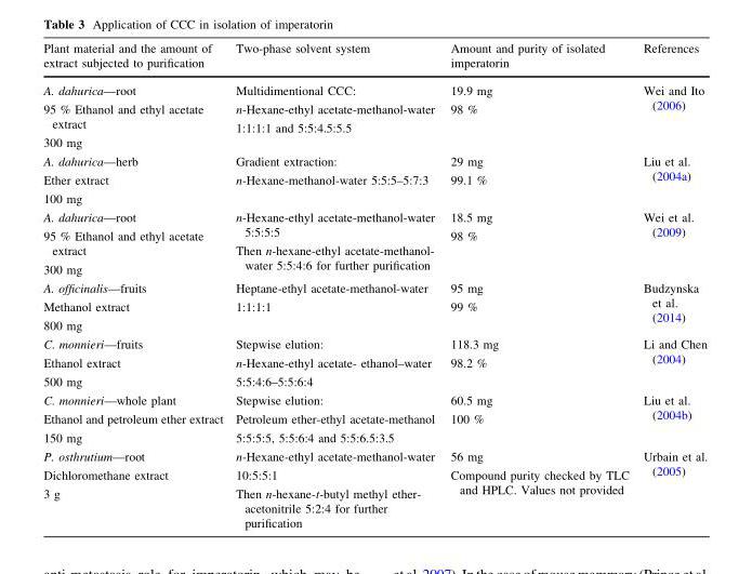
<table><thead><tr><td>Plant material and the amount of extract subjected to purification</td><td>Two-phase solvent system</td><td>Amount and purity of isolated imperatorin</td><td>References</td></tr></thead><tbody><tr><td>A. dahurica—root 95 % Ethanol and ethyl acetate extract 300 mg</td><td>Multidimentional CCC: n-Hexane-ethyl acetate-methanol-water 1:1:1:1 and 5:5:4.5:5.5</td><td>19.9 mg 98 %</td><td>Wei and Ito (2006)</td></tr><tr><td>A. dahurica—herb Ether extract 100 mg</td><td>Gradient extraction: n-Hexane-methanol-water 5:5:5–5:7:3</td><td>29 mg 99.1 %</td><td>Liu et al. (2004a)</td></tr><tr><td>A. dahurica—root 95 % Ethanol and ethyl acetate extract 300 mg</td><td>n-Hexane-ethyl acetate-methanol-water 5:5:5:5 Then n-hexane-ethyl acetate-methanol- water 5:5:4:6 for further purification</td><td>18.5 mg 98 %</td><td>Wei et al. (2009)</td></tr><tr><td>A. officinalis—fruits Methanol extract 800 mg</td><td>Heptane-ethyl acetate-methanol-water 1:1:1:1</td><td>95 mg 99 %</td><td>Budzynska et al. (2014)</td></tr><tr><td>C. monnieri—fruits Ethanol extract 500 mg</td><td>Stepwise elution: n-Hexane-ethyl acetate- ethanol–water 5:5:4:6–5:5:6:4</td><td>118.3 mg 98.2 %</td><td>Li and Chen (2004)</td></tr><tr><td>C. monnieri—whole plant Ethanol and petroleum ether extract 150 mg</td><td>Stepwise elution: Petroleum ether-ethyl acetate-methanol 5:5:5:5, 5:5:6:4 and 5:5:6.5:3.5</td><td>60.5 mg 100 %</td><td>Liu et al. (2004b)</td></tr><tr><td>P. osthrutium—root Dichloromethane extract 3 g</td><td>n-Hexane-ethyl acetate-methanol-water 10:5:5:1 Then n-hexane-t-butyl methyl ether- acetonitrile 5:2:4 for further purification</td><td>56 mg Compound purity checked by TLC and HPLC. Values not provided</td><td>Urbain et al. (2005)</td></tr></tbody></table>